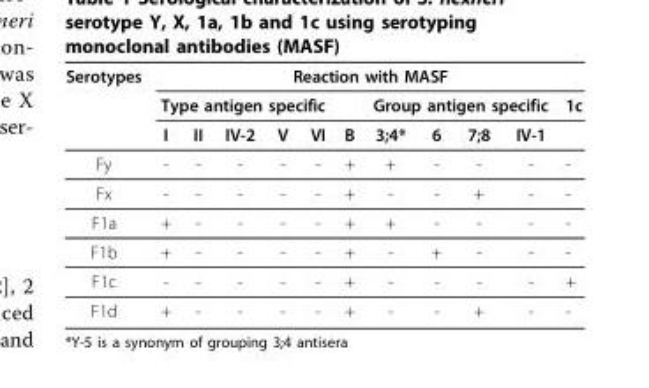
<table><thead><tr><td rowspan="3">Serotypes</td><td colspan="11">Reaction with MASF</td></tr><tr><td colspan="5">Type antigen specific</td><td rowspan="2">B</td><td colspan="4">Group antigen specific</td><td rowspan="2">1c</td></tr><tr><td>I</td><td>II</td><td>IV-2</td><td>V</td><td>VI</td><td>3;4*</td><td>6</td><td>7;8</td><td>IV-1</td></tr></thead><tbody><tr><td>Fy</td><td>-</td><td>-</td><td>-</td><td>-</td><td>-</td><td>+</td><td>+</td><td>-</td><td>-</td><td>-</td><td>-</td></tr><tr><td>Fx</td><td>-</td><td>-</td><td>-</td><td>-</td><td>-</td><td>+</td><td>-</td><td>-</td><td>+</td><td>-</td><td>-</td></tr><tr><td>F1a</td><td>+</td><td>-</td><td>-</td><td>-</td><td>-</td><td>+</td><td>+</td><td>-</td><td>-</td><td>-</td><td>-</td></tr><tr><td>F1b</td><td>+</td><td>-</td><td>-</td><td>-</td><td>-</td><td>+</td><td>-</td><td>+</td><td>-</td><td>-</td><td>-</td></tr><tr><td>F1c</td><td>-</td><td>-</td><td>-</td><td>-</td><td>-</td><td>+</td><td>-</td><td>-</td><td>-</td><td>-</td><td>+</td></tr><tr><td>F1d</td><td>+</td><td>-</td><td>-</td><td>-</td><td>-</td><td>+</td><td>-</td><td>-</td><td>+</td><td>-</td><td>-</td></tr></tbody></table>